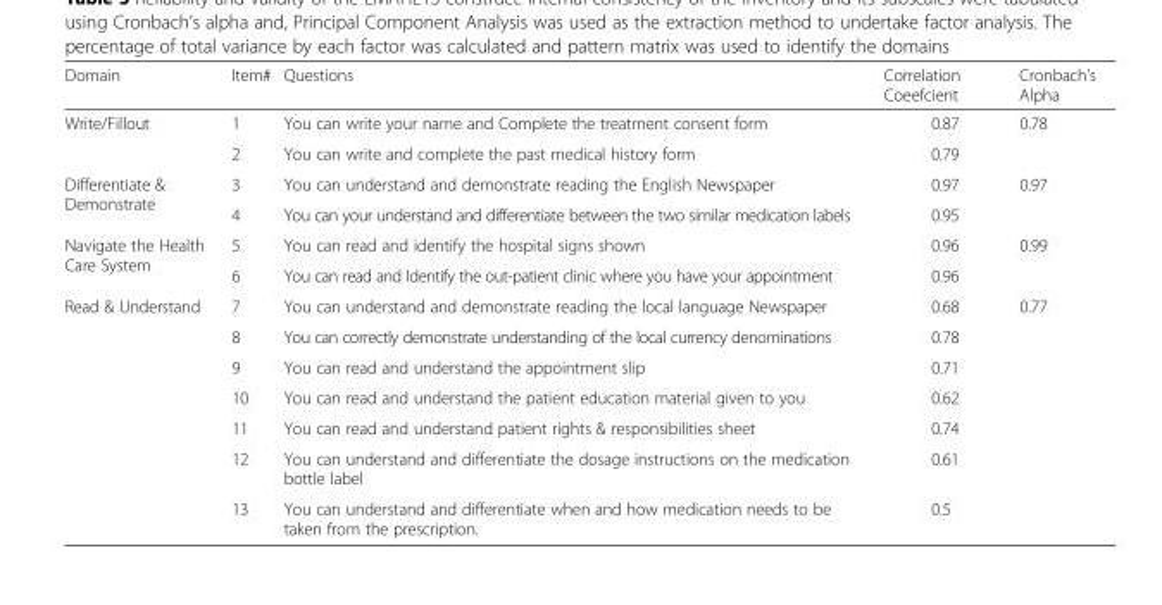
<table><thead><tr><td>Domain</td><td>Item#</td><td>Questions</td><td>Correlation Coeefcient</td><td>Cronbach’s Alpha</td></tr></thead><tbody><tr><td rowspan="2">Write/Fillout</td><td>1</td><td>You can write your name and Complete the treatment consent form</td><td>0.87</td><td rowspan="2">0.78</td></tr><tr><td>2</td><td>You can write and complete the past medical history form</td><td>0.79</td></tr><tr><td rowspan="2">Differentiate &amp; Demonstrate</td><td>3</td><td>You can understand and demonstrate reading the English Newspaper</td><td>0.97</td><td rowspan="2">0.97</td></tr><tr><td>4</td><td>You can your understand and differentiate between the two similar medication labels</td><td>0.95</td></tr><tr><td rowspan="2">Navigate the Health Care System</td><td>5</td><td>You can read and identify the hospital signs shown</td><td>0.96</td><td rowspan="2">0.99</td></tr><tr><td>6</td><td>You can read and Identify the out-patient clinic where you have your appointment</td><td>0.96</td></tr><tr><td rowspan="7">Read &amp; Understand</td><td>7</td><td>You can understand and demonstrate reading the local language Newspaper</td><td>0.68</td><td rowspan="7">0.77</td></tr><tr><td>8</td><td>You can correctly demonstrate understanding of the local currency denominations</td><td>0.78</td></tr><tr><td>9</td><td>You can read and understand the appointment slip</td><td>0.71</td></tr><tr><td>10</td><td>You can read and understand the patient education material given to you</td><td>0.62</td></tr><tr><td>11</td><td>You can read and understand patient rights &amp; responsibilities sheet</td><td>0.74</td></tr><tr><td>12</td><td>You can understand and differentiate the dosage instructions on the medication bottle label</td><td>0.61</td></tr><tr><td>13</td><td>You can understand and differentiate when and how medication needs to be taken from the prescription.</td><td>0.5</td></tr></tbody></table>